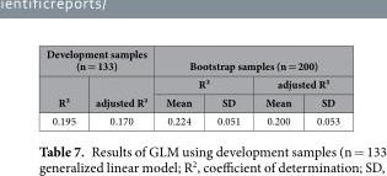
<table><thead><tr><td colspan="2">Development samples (n = 133)</td><td colspan="4">Bootstrap samples (n = 200)</td></tr><tr><td rowspan="2">R²</td><td rowspan="2">adjusted R²</td><td colspan="2">R²</td><td colspan="2">adjusted R²</td></tr><tr><td>Mean</td><td>SD</td><td>Mean</td><td>SD</td></tr></thead><tbody><tr><td>0.195</td><td>0.170</td><td>0.224</td><td>0.051</td><td>0.200</td><td>0.053</td></tr></tbody></table>